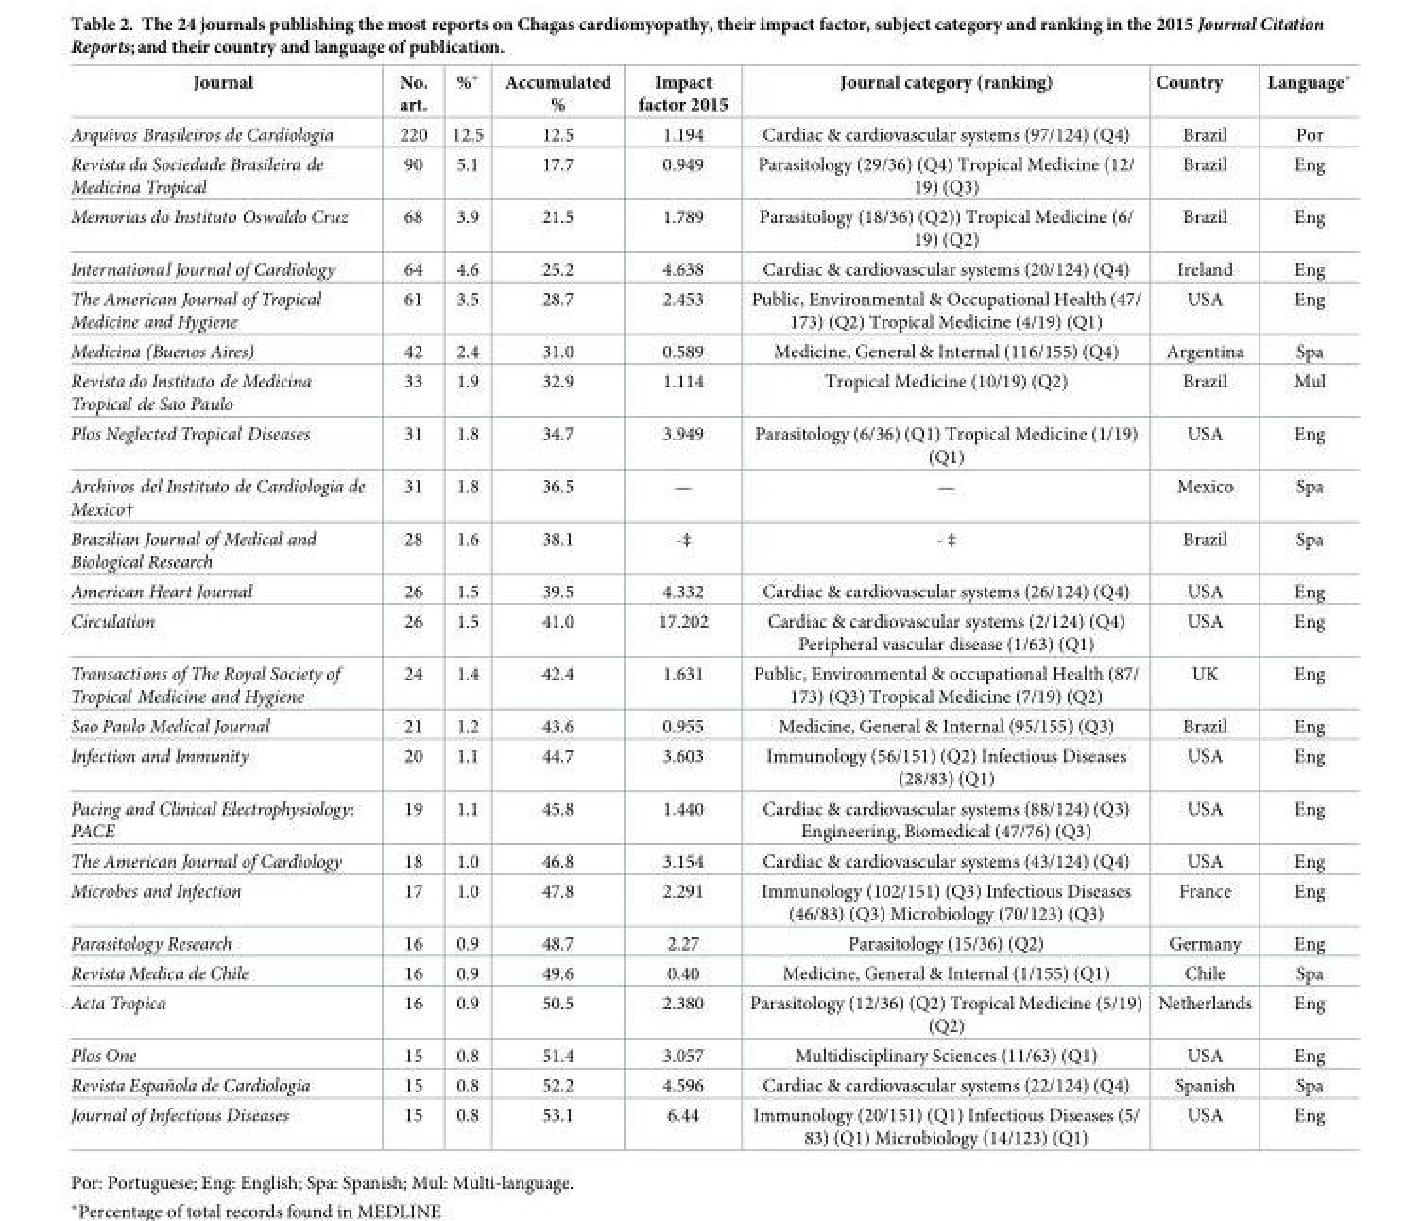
<table><thead><tr><td>Journal</td><td>No. art.</td><td>%*</td><td>Accumulated %</td><td>Impact factor 2015</td><td>Journal category (ranking)</td><td>Country</td><td>Language*</td></tr></thead><tbody><tr><td>Arquivos Brasileiros de Cardiologia</td><td>220</td><td>12.5</td><td>12.5</td><td>1.194</td><td>Cardiac &amp; cardiovascular systems (97/124) (Q4)</td><td>Brazil</td><td>Por</td></tr><tr><td>Revista da Sociedade Brasileira de Medicina Tropical</td><td>90</td><td>5.1</td><td>17.7</td><td>0.949</td><td>Parasitology (29/36) (Q4) Tropical Medicine (12/ 19) (Q3)</td><td>Brazil</td><td>Eng</td></tr><tr><td>Memorias do Instituto Oswaldo Cruz</td><td>68</td><td>3.9</td><td>21.5</td><td>1.789</td><td>Parasitology (18/36) (Q2)) Tropical Medicine (6/ 19) (Q2)</td><td>Brazil</td><td>Eng</td></tr><tr><td>International Journal of Cardiology</td><td>64</td><td>4.6</td><td>25.2</td><td>4.638</td><td>Cardiac &amp; cardiovascular systems (20/124) (Q4)</td><td>Ireland</td><td>Eng</td></tr><tr><td>The American Journal of Tropical Medicine and Hygiene</td><td>61</td><td>3.5</td><td>28.7</td><td>2.453</td><td>Public, Environmental &amp; Occupational Health (47/ 173) (Q2) Tropical Medicine (4/19) (Q1)</td><td>USA</td><td>Eng</td></tr><tr><td>Medicina (Buenos Aires)</td><td>42</td><td>2.4</td><td>31.0</td><td>0.589</td><td>Medicine, General &amp; Internal (116/155) (Q4)</td><td>Argentina</td><td>Spa</td></tr><tr><td>Revista do Instituto de Medicina Tropical de Sao Paulo</td><td>33</td><td>1.9</td><td>32.9</td><td>1.114</td><td>Tropical Medicine (10/19) (Q2)</td><td>Brazil</td><td>Mul</td></tr><tr><td>Plos Neglected Tropical Diseases</td><td>31</td><td>1.8</td><td>34.7</td><td>3.949</td><td>Parasitology (6/36) (Q1) Tropical Medicine (1/19) (Q1)</td><td>USA</td><td>Eng</td></tr><tr><td>Archivos del Instituto de Cardiologia de Mexico†</td><td>31</td><td>1.8</td><td>36.5</td><td>—</td><td>—</td><td>Mexico</td><td>Spa</td></tr><tr><td>Brazilian Journal of Medical and Biological Research</td><td>28</td><td>1.6</td><td>38.1</td><td>-‡</td><td>- ‡</td><td>Brazil</td><td>Spa</td></tr><tr><td>American Heart Journal</td><td>26</td><td>1.5</td><td>39.5</td><td>4.332</td><td>Cardiac &amp; cardiovascular systems (26/124) (Q4)</td><td>USA</td><td>Eng</td></tr><tr><td>Circulation</td><td>26</td><td>1.5</td><td>41.0</td><td>17.202</td><td>Cardiac &amp; cardiovascular systems (2/124) (Q4) Peripheral vascular disease (1/63) (Q1)</td><td>USA</td><td>Eng</td></tr><tr><td>Transactions of The Royal Society of Tropical Medicine and Hygiene</td><td>24</td><td>1.4</td><td>42.4</td><td>1.631</td><td>Public, Environmental &amp; occupational Health (87/ 173) (Q3) Tropical Medicine (7/19) (Q2)</td><td>UK</td><td>Eng</td></tr><tr><td>Sao Paulo Medical Journal</td><td>21</td><td>1.2</td><td>43.6</td><td>0.955</td><td>Medicine, General &amp; Internal (95/155) (Q3)</td><td>Brazil</td><td>Eng</td></tr><tr><td>Infection and Immunity</td><td>20</td><td>1.1</td><td>44.7</td><td>3.603</td><td>Immunology (56/151) (Q2) Infectious Diseases (28/83) (Q1)</td><td>USA</td><td>Eng</td></tr><tr><td>Pacing and Clinical Electrophysiology: PACE</td><td>19</td><td>1.1</td><td>45.8</td><td>1.440</td><td>Cardiac &amp; cardiovascular systems (88/124) (Q3) Engineering, Biomedical (47/76) (Q3)</td><td>USA</td><td>Eng</td></tr><tr><td>The American Journal of Cardiology</td><td>18</td><td>1.0</td><td>46.8</td><td>3.154</td><td>Cardiac &amp; cardiovascular systems (43/124) (Q4)</td><td>USA</td><td>Eng</td></tr><tr><td>Microbes and Infection</td><td>17</td><td>1.0</td><td>47.8</td><td>2.291</td><td>Immunology (102/151) (Q3) Infectious Diseases (46/83) (Q3) Microbiology (70/123) (Q3)</td><td>France</td><td>Eng</td></tr><tr><td>Parasitology Research</td><td>16</td><td>0.9</td><td>48.7</td><td>2.27</td><td>Parasitology (15/36) (Q2)</td><td>Germany</td><td>Eng</td></tr><tr><td>Revista Medica de Chile</td><td>16</td><td>0.9</td><td>49.6</td><td>0.40</td><td>Medicine, General &amp; Internal (1/155) (Q1)</td><td>Chile</td><td>Spa</td></tr><tr><td>Acta Tropica</td><td>16</td><td>0.9</td><td>50.5</td><td>2.380</td><td>Parasitology (12/36) (Q2) Tropical Medicine (5/19) (Q2)</td><td>Netherlands</td><td>Eng</td></tr><tr><td>Plos One</td><td>15</td><td>0.8</td><td>51.4</td><td>3.057</td><td>Multidisciplinary Sciences (11/63) (Q1)</td><td>USA</td><td>Eng</td></tr><tr><td>Revista Española de Cardiologia</td><td>15</td><td>0.8</td><td>52.2</td><td>4.596</td><td>Cardiac &amp; cardiovascular systems (22/124) (Q4)</td><td>Spanish</td><td>Spa</td></tr><tr><td>Journal of Infectious Diseases</td><td>15</td><td>0.8</td><td>53.1</td><td>6.44</td><td>Immunology (20/151) (Q1) Infectious Diseases (5/ 83) (Q1) Microbiology (14/123) (Q1)</td><td>USA</td><td>Eng</td></tr></tbody></table>